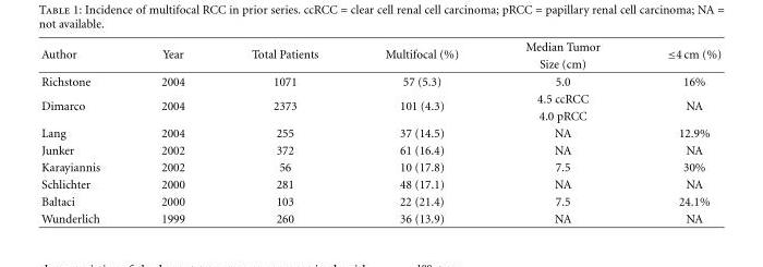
<table><thead><tr><td rowspan="2">Author</td><td rowspan="2">Year</td><td rowspan="2">Total Patients</td><td rowspan="2">Multifocal (%)</td><td rowspan="2">Median Tumor Size (cm)</td><td rowspan="2">≤4 cm (%)</td></tr><tr></tr></thead><tbody><tr><td>Richstone</td><td>2004</td><td>1071</td><td>57 (5.3)</td><td>5.0</td><td>16%</td></tr><tr><td rowspan="2">Dimarco</td><td rowspan="2">2004</td><td rowspan="2">2373</td><td rowspan="2">101 (4.3)</td><td>4.5 ccRCC</td><td rowspan="2">NA</td></tr><tr><td>4.0 pRCC</td></tr><tr><td>Lang</td><td>2004</td><td>255</td><td>37 (14.5)</td><td>NA</td><td>12.9%</td></tr><tr><td>Junker</td><td>2002</td><td>372</td><td>61 (16.4)</td><td>NA</td><td>NA</td></tr><tr><td>Karayiannis</td><td>2002</td><td>56</td><td>10 (17.8)</td><td>7.5</td><td>30%</td></tr><tr><td>Schlichter</td><td>2000</td><td>281</td><td>48 (17.1)</td><td>NA</td><td>NA</td></tr><tr><td>Baltaci</td><td>2000</td><td>103</td><td>22 (21.4)</td><td>7.5</td><td>24.1%</td></tr><tr><td>Wunderlich</td><td>1999</td><td>260</td><td>36 (13.9)</td><td>NA</td><td>NA</td></tr></tbody></table>